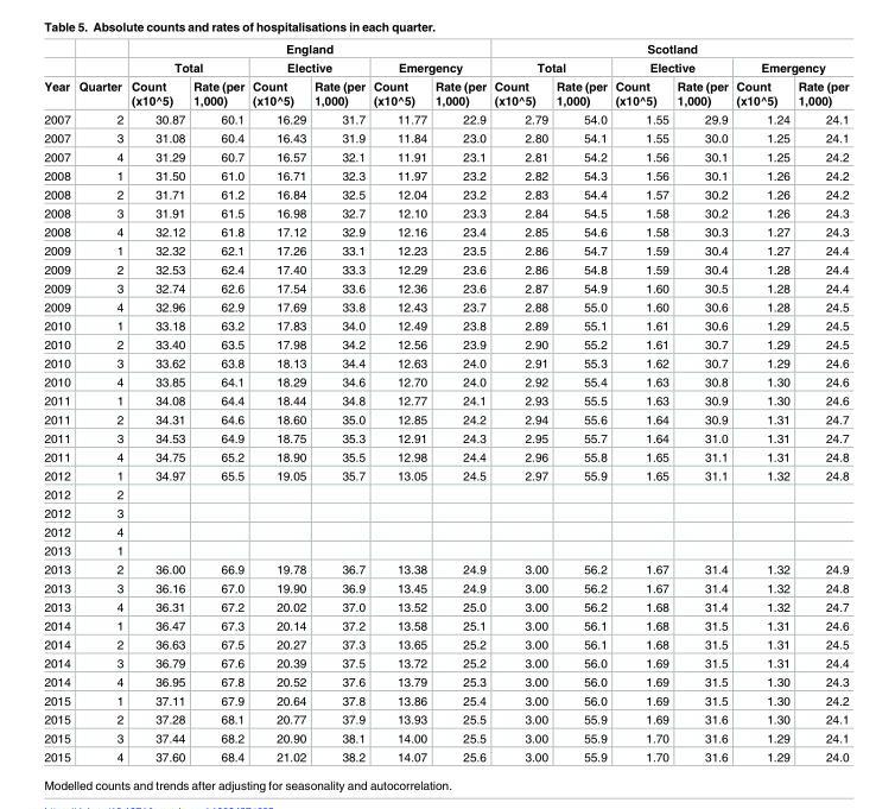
<table><thead><tr><td rowspan="3">Year</td><td rowspan="3">Quarter</td><td colspan="6">England</td><td colspan="6">Scotland</td></tr><tr><td colspan="2">Total</td><td colspan="2">Elective</td><td colspan="2">Emergency</td><td colspan="2">Total</td><td colspan="2">Elective</td><td colspan="2">Emergency</td></tr><tr><td>Count (x10^5)</td><td>Rate (per 1,000)</td><td>Count (x10^5)</td><td>Rate (per 1,000)</td><td>Count (x10^5)</td><td>Rate (per 1,000)</td><td>Count (x10^5)</td><td>Rate (per 1,000)</td><td>Count (x10^5)</td><td>Rate (per 1,000)</td><td>Count (x10^5)</td><td>Rate (per 1,000)</td></tr></thead><tbody><tr><td>2007</td><td>2</td><td>30.87</td><td>60.1</td><td>16.29</td><td>31.7</td><td>11.77</td><td>22.9</td><td>2.79</td><td>54.0</td><td>1.55</td><td>29.9</td><td>1.24</td><td>24.1</td></tr><tr><td>2007</td><td>3</td><td>31.08</td><td>60.4</td><td>16.43</td><td>31.9</td><td>11.84</td><td>23.0</td><td>2.80</td><td>54.1</td><td>1.55</td><td>30.0</td><td>1.25</td><td>24.1</td></tr><tr><td>2007</td><td>4</td><td>31.29</td><td>60.7</td><td>16.57</td><td>32.1</td><td>11.91</td><td>23.1</td><td>2.81</td><td>54.2</td><td>1.56</td><td>30.1</td><td>1.25</td><td>24.2</td></tr><tr><td>2008</td><td>1</td><td>31.50</td><td>61.0</td><td>16.71</td><td>32.3</td><td>11.97</td><td>23.2</td><td>2.82</td><td>54.3</td><td>1.56</td><td>30.1</td><td>1.26</td><td>24.2</td></tr><tr><td>2008</td><td>2</td><td>31.71</td><td>61.2</td><td>16.84</td><td>32.5</td><td>12.04</td><td>23.2</td><td>2.83</td><td>54.4</td><td>1.57</td><td>30.2</td><td>1.26</td><td>24.2</td></tr><tr><td>2008</td><td>3</td><td>31.91</td><td>61.5</td><td>16.98</td><td>32.7</td><td>12.10</td><td>23.3</td><td>2.84</td><td>54.5</td><td>1.58</td><td>30.2</td><td>1.26</td><td>24.3</td></tr><tr><td>2008</td><td>4</td><td>32.12</td><td>61.8</td><td>17.12</td><td>32.9</td><td>12.16</td><td>23.4</td><td>2.85</td><td>54.6</td><td>1.58</td><td>30.3</td><td>1.27</td><td>24.3</td></tr><tr><td>2009</td><td>1</td><td>32.32</td><td>62.1</td><td>17.26</td><td>33.1</td><td>12.23</td><td>23.5</td><td>2.86</td><td>54.7</td><td>1.59</td><td>30.4</td><td>1.27</td><td>24.4</td></tr><tr><td>2009</td><td>2</td><td>32.53</td><td>62.4</td><td>17.40</td><td>33.3</td><td>12.29</td><td>23.6</td><td>2.86</td><td>54.8</td><td>1.59</td><td>30.4</td><td>1.28</td><td>24.4</td></tr><tr><td>2009</td><td>3</td><td>32.74</td><td>62.6</td><td>17.54</td><td>33.6</td><td>12.36</td><td>23.6</td><td>2.87</td><td>54.9</td><td>1.60</td><td>30.5</td><td>1.28</td><td>24.4</td></tr><tr><td>2009</td><td>4</td><td>32.96</td><td>62.9</td><td>17.69</td><td>33.8</td><td>12.43</td><td>23.7</td><td>2.88</td><td>55.0</td><td>1.60</td><td>30.6</td><td>1.28</td><td>24.5</td></tr><tr><td>2010</td><td>1</td><td>33.18</td><td>63.2</td><td>17.83</td><td>34.0</td><td>12.49</td><td>23.8</td><td>2.89</td><td>55.1</td><td>1.61</td><td>30.6</td><td>1.29</td><td>24.5</td></tr><tr><td>2010</td><td>2</td><td>33.40</td><td>63.5</td><td>17.98</td><td>34.2</td><td>12.56</td><td>23.9</td><td>2.90</td><td>55.2</td><td>1.61</td><td>30.7</td><td>1.29</td><td>24.5</td></tr><tr><td>2010</td><td>3</td><td>33.62</td><td>63.8</td><td>18.13</td><td>34.4</td><td>12.63</td><td>24.0</td><td>2.91</td><td>55.3</td><td>1.62</td><td>30.7</td><td>1.29</td><td>24.6</td></tr><tr><td>2010</td><td>4</td><td>33.85</td><td>64.1</td><td>18.29</td><td>34.6</td><td>12.70</td><td>24.0</td><td>2.92</td><td>55.4</td><td>1.63</td><td>30.8</td><td>1.30</td><td>24.6</td></tr><tr><td>2011</td><td>1</td><td>34.08</td><td>64.4</td><td>18.44</td><td>34.8</td><td>12.77</td><td>24.1</td><td>2.93</td><td>55.5</td><td>1.63</td><td>30.9</td><td>1.30</td><td>24.6</td></tr><tr><td>2011</td><td>2</td><td>34.31</td><td>64.6</td><td>18.60</td><td>35.0</td><td>12.85</td><td>24.2</td><td>2.94</td><td>55.6</td><td>1.64</td><td>30.9</td><td>1.31</td><td>24.7</td></tr><tr><td>2011</td><td>3</td><td>34.53</td><td>64.9</td><td>18.75</td><td>35.3</td><td>12.91</td><td>24.3</td><td>2.95</td><td>55.7</td><td>1.64</td><td>31.0</td><td>1.31</td><td>24.7</td></tr><tr><td>2011</td><td>4</td><td>34.75</td><td>65.2</td><td>18.90</td><td>35.5</td><td>12.98</td><td>24.4</td><td>2.96</td><td>55.8</td><td>1.65</td><td>31.1</td><td>1.31</td><td>24.8</td></tr><tr><td>2012</td><td>1</td><td>34.97</td><td>65.5</td><td>19.05</td><td>35.7</td><td>13.05</td><td>24.5</td><td>2.97</td><td>55.9</td><td>1.65</td><td>31.1</td><td>1.32</td><td>24.8</td></tr><tr><td>2012</td><td>2</td><td></td><td></td><td></td><td></td><td></td><td></td><td></td><td></td><td></td><td></td><td></td><td></td></tr><tr><td>2012</td><td>3</td><td></td><td></td><td></td><td></td><td></td><td></td><td></td><td></td><td></td><td></td><td></td><td></td></tr><tr><td>2012</td><td>4</td><td></td><td></td><td></td><td></td><td></td><td></td><td></td><td></td><td></td><td></td><td></td><td></td></tr><tr><td>2013</td><td>1</td><td></td><td></td><td></td><td></td><td></td><td></td><td></td><td></td><td></td><td></td><td></td><td></td></tr><tr><td>2013</td><td>2</td><td>36.00</td><td>66.9</td><td>19.78</td><td>36.7</td><td>13.38</td><td>24.9</td><td>3.00</td><td>56.2</td><td>1.67</td><td>31.4</td><td>1.32</td><td>24.9</td></tr><tr><td>2013</td><td>3</td><td>36.16</td><td>67.0</td><td>19.90</td><td>36.9</td><td>13.45</td><td>24.9</td><td>3.00</td><td>56.2</td><td>1.67</td><td>31.4</td><td>1.32</td><td>24.8</td></tr><tr><td>2013</td><td>4</td><td>36.31</td><td>67.2</td><td>20.02</td><td>37.0</td><td>13.52</td><td>25.0</td><td>3.00</td><td>56.2</td><td>1.68</td><td>31.4</td><td>1.32</td><td>24.7</td></tr><tr><td>2014</td><td>1</td><td>36.47</td><td>67.3</td><td>20.14</td><td>37.2</td><td>13.58</td><td>25.1</td><td>3.00</td><td>56.1</td><td>1.68</td><td>31.5</td><td>1.31</td><td>24.6</td></tr><tr><td>2014</td><td>2</td><td>36.63</td><td>67.5</td><td>20.27</td><td>37.3</td><td>13.65</td><td>25.2</td><td>3.00</td><td>56.1</td><td>1.68</td><td>31.5</td><td>1.31</td><td>24.5</td></tr><tr><td>2014</td><td>3</td><td>36.79</td><td>67.6</td><td>20.39</td><td>37.5</td><td>13.72</td><td>25.2</td><td>3.00</td><td>56.0</td><td>1.69</td><td>31.5</td><td>1.31</td><td>24.4</td></tr><tr><td>2014</td><td>4</td><td>36.95</td><td>67.8</td><td>20.52</td><td>37.6</td><td>13.79</td><td>25.3</td><td>3.00</td><td>56.0</td><td>1.69</td><td>31.5</td><td>1.30</td><td>24.3</td></tr><tr><td>2015</td><td>1</td><td>37.11</td><td>67.9</td><td>20.64</td><td>37.8</td><td>13.86</td><td>25.4</td><td>3.00</td><td>56.0</td><td>1.69</td><td>31.5</td><td>1.30</td><td>24.2</td></tr><tr><td>2015</td><td>2</td><td>37.28</td><td>68.1</td><td>20.77</td><td>37.9</td><td>13.93</td><td>25.5</td><td>3.00</td><td>55.9</td><td>1.69</td><td>31.6</td><td>1.30</td><td>24.1</td></tr><tr><td>2015</td><td>3</td><td>37.44</td><td>68.2</td><td>20.90</td><td>38.1</td><td>14.00</td><td>25.5</td><td>3.00</td><td>55.9</td><td>1.70</td><td>31.6</td><td>1.29</td><td>24.1</td></tr><tr><td>2015</td><td>4</td><td>37.60</td><td>68.4</td><td>21.02</td><td>38.2</td><td>14.07</td><td>25.6</td><td>3.00</td><td>55.9</td><td>1.70</td><td>31.6</td><td>1.29</td><td>24.0</td></tr></tbody></table>